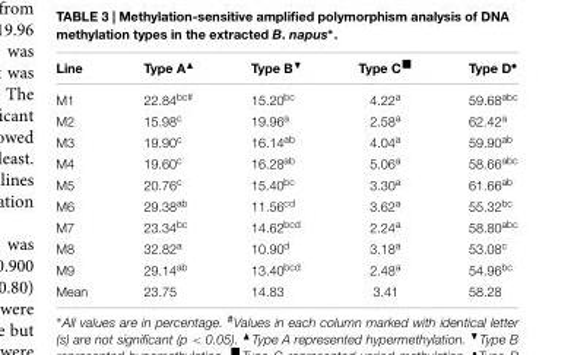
<table><thead><tr><td>Line</td><td>Type A▲</td><td>Type B▼</td><td>Type C<sup>■</sup></td><td>Type D<sup>•</sup></td></tr></thead><tbody><tr><td>M1</td><td>22.84<sup>bc#</sup></td><td>15.20<sup>bc</sup></td><td>4.22<sup>a</sup></td><td>59.68<sup>abc</sup></td></tr><tr><td>M2</td><td>15.98<sup>c</sup></td><td>19.96<sup>a</sup></td><td>2.58<sup>a</sup></td><td>62.42<sup>a</sup></td></tr><tr><td>M3</td><td>19.90<sup>c</sup></td><td>16.14<sup>ab</sup></td><td>4.04<sup>a</sup></td><td>59.90<sup>ab</sup></td></tr><tr><td>M4</td><td>19.60<sup>c</sup></td><td>16.28<sup>ab</sup></td><td>5.06<sup>a</sup></td><td>58.66<sup>abc</sup></td></tr><tr><td>M5</td><td>20.76<sup>c</sup></td><td>15.40<sup>bc</sup></td><td>3.30<sup>a</sup></td><td>61.66<sup>ab</sup></td></tr><tr><td>M6</td><td>29.38<sup>ab</sup></td><td>11.56<sup>cd</sup></td><td>3.62<sup>a</sup></td><td>55.32<sup>bc</sup></td></tr><tr><td>M7</td><td>23.34<sup>bc</sup></td><td>14.62<sup>bcd</sup></td><td>2.24<sup>a</sup></td><td>58.80<sup>abc</sup></td></tr><tr><td>M8</td><td>32.82<sup>a</sup></td><td>10.90<sup>d</sup></td><td>3.18<sup>a</sup></td><td>53.08<sup>c</sup></td></tr><tr><td>M9</td><td>29.14<sup>ab</sup></td><td>13.40<sup>bcd</sup></td><td>2.48<sup>a</sup></td><td>54.96<sup>bc</sup></td></tr><tr><td>Mean</td><td>23.75</td><td>14.83</td><td>3.41</td><td>58.28</td></tr></tbody></table>